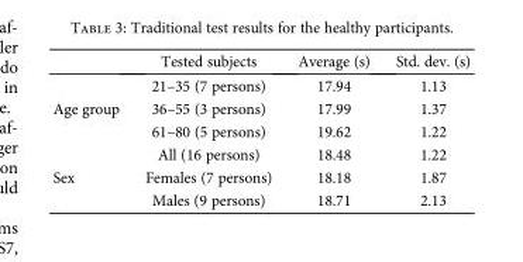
<table><thead><tr><td></td><td>Tested subjects</td><td>Average (s)</td><td>Std. dev. (s)</td></tr></thead><tbody><tr><td rowspan="3">Age group</td><td>21–35 (7 persons)</td><td>17.94</td><td>1.13</td></tr><tr><td>36–55 (3 persons)</td><td>17.99</td><td>1.37</td></tr><tr><td>61–80 (5 persons)</td><td>19.62</td><td>1.22</td></tr><tr><td rowspan="3">Sex</td><td>All (16 persons)</td><td>18.48</td><td>1.22</td></tr><tr><td>Females (7 persons)</td><td>18.18</td><td>1.87</td></tr><tr><td>Males (9 persons)</td><td>18.71</td><td>2.13</td></tr></tbody></table>